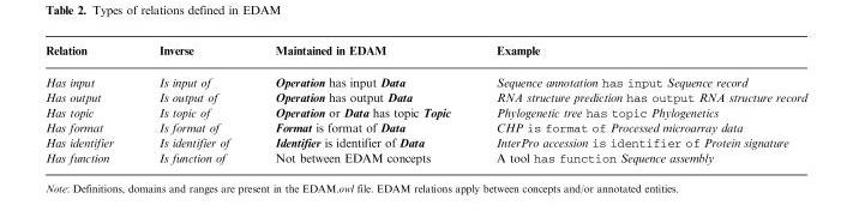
<table><thead><tr><td>Relation</td><td>Inverse</td><td>Maintained in EDAM</td><td>Example</td></tr></thead><tbody><tr><td>Has input</td><td>Is input of</td><td>Operation has input Data</td><td>Sequence annotation has input Sequence record</td></tr><tr><td>Has output</td><td>Is output of</td><td>Operation has output Data</td><td>RNA structure prediction has output RNA structure record</td></tr><tr><td>Has topic</td><td>Is topic of</td><td>Operation or Data has topic Topic</td><td>Phylogenetic tree has topic Phylogenetics</td></tr><tr><td>Has format</td><td>Is format of</td><td>Format is format of Data</td><td>CHP is format of Processed microarray data</td></tr><tr><td>Has identifier</td><td>Is identifier of</td><td>Identifier is identifier of Data</td><td>InterPro accession is identifier of Protein signature</td></tr><tr><td>Has function</td><td>Is function of</td><td>Not between EDAM concepts</td><td>A tool has function Sequence assembly</td></tr></tbody></table>